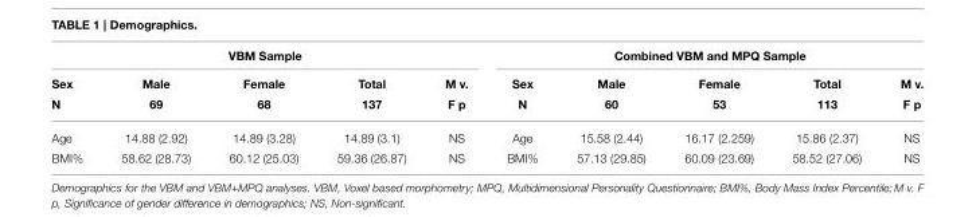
<table><thead><tr><td colspan="5">VBM Sample</td><td colspan="5">Combined VBM and MPQ Sample</td></tr><tr><td rowspan="2">Sex N</td><td rowspan="2">Male 69</td><td rowspan="2">Female 68</td><td rowspan="2">Total 137</td><td rowspan="2">M v. F p</td><td rowspan="2">Sex N</td><td rowspan="2">Male 60</td><td rowspan="2">Female 53</td><td rowspan="2">Total 113</td><td rowspan="2">M v. F p</td></tr><tr></tr></thead><tbody><tr><td>Age</td><td>14.88 (2.92)</td><td>14.89 (3.28)</td><td>14.89 (3.1)</td><td>NS</td><td>Age</td><td>15.58 (2.44)</td><td>16.17 (2.259)</td><td>15.86 (2.37)</td><td>NS</td></tr><tr><td>BMI%</td><td>58.62 (28.73)</td><td>60.12 (25.03)</td><td>59.36 (26.87)</td><td>NS</td><td>BMI%</td><td>57.13 (29.85)</td><td>60.09 (23.69)</td><td>58.52 (27.06)</td><td>NS</td></tr></tbody></table>